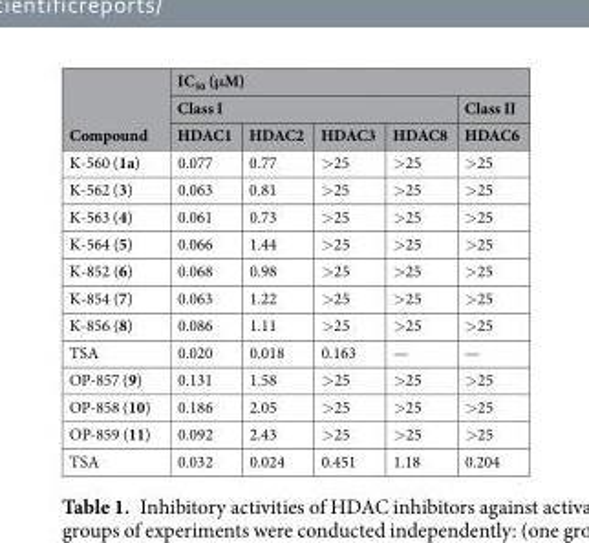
<table><thead><tr><td rowspan="3">Compound</td><td colspan="5">IC<sub>50</sub> (μM)</td></tr><tr><td colspan="4">Class I</td><td rowspan="2">Class II HDAC6</td></tr><tr><td>HDAC1</td><td>HDAC2</td><td>HDAC3</td><td>HDAC8</td></tr></thead><tbody><tr><td>K-560 (1a)</td><td>0.077</td><td>0.77</td><td>&gt;25</td><td>&gt;25</td><td>&gt;25</td></tr><tr><td>K-562 (3)</td><td>0.063</td><td>0.81</td><td>&gt;25</td><td>&gt;25</td><td>&gt;25</td></tr><tr><td>K-563 (4)</td><td>0.061</td><td>0.73</td><td>&gt;25</td><td>&gt;25</td><td>&gt;25</td></tr><tr><td>K-564 (5)</td><td>0.066</td><td>1.44</td><td>&gt;25</td><td>&gt;25</td><td>&gt;25</td></tr><tr><td>K-852 (6)</td><td>0.068</td><td>0.98</td><td>&gt;25</td><td>&gt;25</td><td>&gt;25</td></tr><tr><td>K-854 (7)</td><td>0.063</td><td>1.22</td><td>&gt;25</td><td>&gt;25</td><td>&gt;25</td></tr><tr><td>K-856 (8)</td><td>0.086</td><td>1.11</td><td>&gt;25</td><td>&gt;25</td><td>&gt;25</td></tr><tr><td>TSA</td><td>0.020</td><td>0.018</td><td>0.163</td><td>—</td><td>—</td></tr><tr><td>OP-857 (9)</td><td>0.131</td><td>1.58</td><td>&gt;25</td><td>&gt;25</td><td>&gt;25</td></tr><tr><td>OP-858 (10)</td><td>0.186</td><td>2.05</td><td>&gt;25</td><td>&gt;25</td><td>&gt;25</td></tr><tr><td>OP-859 (11)</td><td>0.092</td><td>2.43</td><td>&gt;25</td><td>&gt;25</td><td>&gt;25</td></tr><tr><td>TSA</td><td>0.032</td><td>0.024</td><td>0.451</td><td>1.18</td><td>0.204</td></tr></tbody></table>